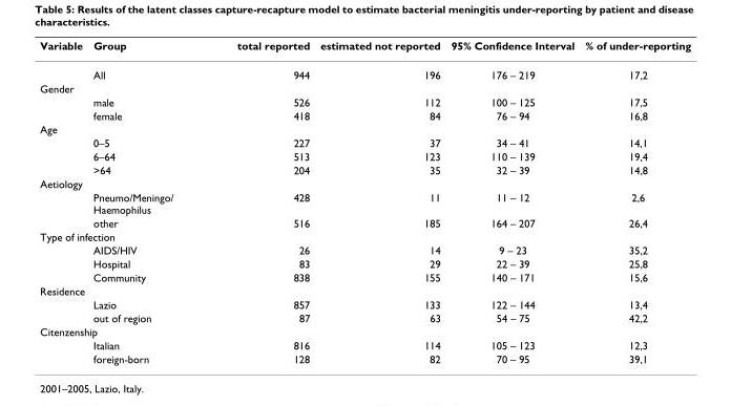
<table><thead><tr><td>Variable</td><td>Group</td><td>total reported</td><td>estimated not reported</td><td>95% Confidence Interval</td><td>% of under-reporting</td></tr></thead><tbody><tr><td></td><td>All</td><td>944</td><td>196</td><td>176 – 219</td><td>17,2</td></tr><tr><td colspan="6">Gender</td></tr><tr><td></td><td>male</td><td>526</td><td>112</td><td>100 – 125</td><td>17,5</td></tr><tr><td></td><td>female</td><td>418</td><td>84</td><td>76 – 94</td><td>16,8</td></tr><tr><td colspan="6">Age</td></tr><tr><td></td><td>0–5</td><td>227</td><td>37</td><td>34 – 41</td><td>14,1</td></tr><tr><td></td><td>6–64</td><td>513</td><td>123</td><td>110 – 139</td><td>19,4</td></tr><tr><td></td><td>&gt;64</td><td>204</td><td>35</td><td>32 – 39</td><td>14,8</td></tr><tr><td colspan="6">Aetiology</td></tr><tr><td></td><td>Pneumo/Meningo/ Haemophilus</td><td>428</td><td>11</td><td>11 – 12</td><td>2,6</td></tr><tr><td></td><td>other</td><td>516</td><td>185</td><td>164 – 207</td><td>26,4</td></tr><tr><td colspan="6">Type of infection</td></tr><tr><td></td><td>AIDS/HIV</td><td>26</td><td>14</td><td>9 – 23</td><td>35,2</td></tr><tr><td></td><td>Hospital</td><td>83</td><td>29</td><td>22 – 39</td><td>25,8</td></tr><tr><td></td><td>Community</td><td>838</td><td>155</td><td>140 – 171</td><td>15,6</td></tr><tr><td colspan="6">Residence</td></tr><tr><td></td><td>Lazio</td><td>857</td><td>133</td><td>122 – 144</td><td>13,4</td></tr><tr><td></td><td>out of region</td><td>87</td><td>63</td><td>54 – 75</td><td>42,2</td></tr><tr><td colspan="6">Citenzenship</td></tr><tr><td></td><td>Italian</td><td>816</td><td>114</td><td>105 – 123</td><td>12,3</td></tr><tr><td></td><td>foreign-born</td><td>128</td><td>82</td><td>70 – 95</td><td>39,1</td></tr></tbody></table>